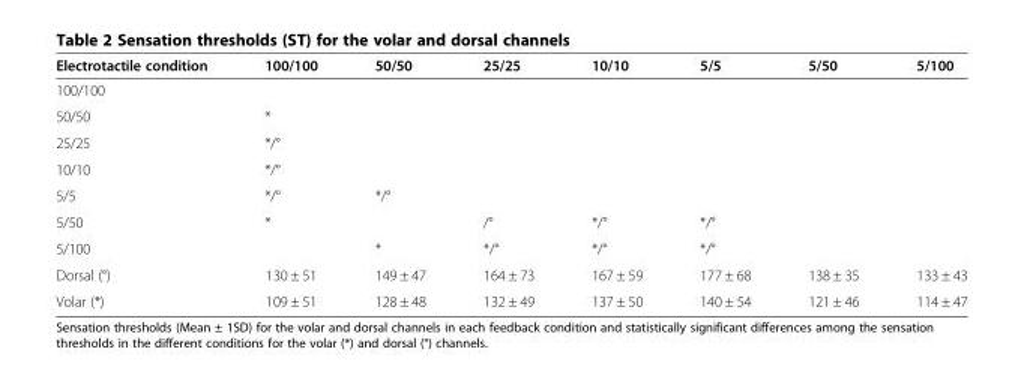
<table><thead><tr><td>Electrotactile condition</td><td>100/100</td><td>50/50</td><td>25/25</td><td>10/10</td><td>5/5</td><td>5/50</td><td>5/100</td></tr></thead><tbody><tr><td colspan="8">100/100</td></tr><tr><td>50/50</td><td>*</td><td></td><td></td><td></td><td></td><td></td><td></td></tr><tr><td>25/25</td><td>*/°</td><td></td><td></td><td></td><td></td><td></td><td></td></tr><tr><td>10/10</td><td>*/°</td><td></td><td></td><td></td><td></td><td></td><td></td></tr><tr><td>5/5</td><td>*/°</td><td>*/°</td><td></td><td></td><td></td><td></td><td></td></tr><tr><td>5/50</td><td>*</td><td></td><td>/°</td><td>*/°</td><td>*/°</td><td></td><td></td></tr><tr><td>5/100</td><td></td><td>*</td><td>*/°</td><td>*/°</td><td>*/°</td><td></td><td></td></tr><tr><td>Dorsal (°)</td><td>130 ± 51</td><td>149 ± 47</td><td>164 ± 73</td><td>167 ± 59</td><td>177 ± 68</td><td>138 ± 35</td><td>133 ± 43</td></tr><tr><td>Volar (*)</td><td>109 ± 51</td><td>128 ± 48</td><td>132 ± 49</td><td>137 ± 50</td><td>140 ± 54</td><td>121 ± 46</td><td>114 ± 47</td></tr></tbody></table>